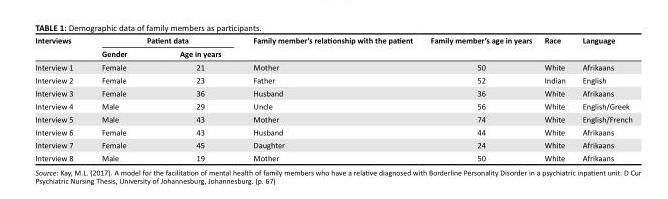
<table><thead><tr><td rowspan="2">Interviews</td><td colspan="2">Patient data</td><td rowspan="2">Family member’s relationship with the patient</td><td rowspan="2">Family member’s age in years</td><td rowspan="2">Race</td><td rowspan="2">Language</td></tr><tr><td>Gender</td><td>Age in years</td></tr></thead><tbody><tr><td>Interview 1</td><td>Female</td><td>21</td><td>Mother</td><td>50</td><td>White</td><td>Afrikaans</td></tr><tr><td>Interview 2</td><td>Female</td><td>23</td><td>Father</td><td>52</td><td>Indian</td><td>English</td></tr><tr><td>Interview 3</td><td>Female</td><td>36</td><td>Husband</td><td>36</td><td>White</td><td>Afrikaans</td></tr><tr><td>Interview 4</td><td>Male</td><td>29</td><td>Uncle</td><td>56</td><td>White</td><td>English/Greek</td></tr><tr><td>Interview 5</td><td>Male</td><td>43</td><td>Mother</td><td>74</td><td>White</td><td>English/French</td></tr><tr><td>Interview 6</td><td>Female</td><td>43</td><td>Husband</td><td>44</td><td>White</td><td>Afrikaans</td></tr><tr><td>Interview 7</td><td>Female</td><td>45</td><td>Daughter</td><td>24</td><td>White</td><td>Afrikaans</td></tr><tr><td>Interview 8</td><td>Male</td><td>19</td><td>Mother</td><td>50</td><td>White</td><td>Afrikaans</td></tr></tbody></table>